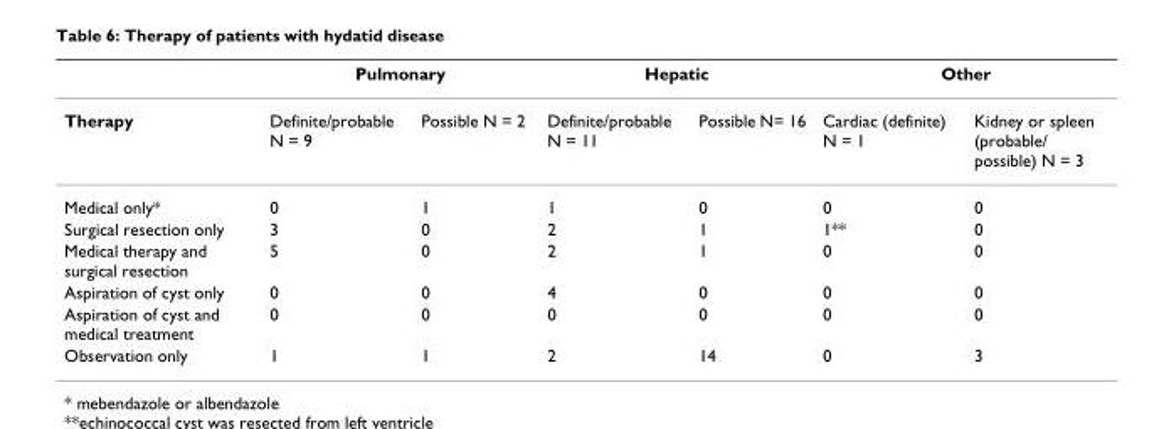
<table><thead><tr><td rowspan="2">Therapy</td><td colspan="2">Pulmonary</td><td colspan="2">Hepatic</td><td colspan="2">Other</td></tr><tr><td>Definite/probable N = 9</td><td>Possible N = 2</td><td>Definite/probable N = 11</td><td>Possible N= 16</td><td>Cardiac (definite) N = 1</td><td>Kidney or spleen (probable/ possible) N = 3</td></tr></thead><tbody><tr><td>Medical only*</td><td>0</td><td>1</td><td>1</td><td>0</td><td>0</td><td>0</td></tr><tr><td>Surgical resection only</td><td>3</td><td>0</td><td>2</td><td>1</td><td>1**</td><td>0</td></tr><tr><td>Medical therapy and surgical resection</td><td>5</td><td>0</td><td>2</td><td>1</td><td>0</td><td>0</td></tr><tr><td>Aspiration of cyst only</td><td>0</td><td>0</td><td>4</td><td>0</td><td>0</td><td>0</td></tr><tr><td>Aspiration of cyst and medical treatment</td><td>0</td><td>0</td><td>0</td><td>0</td><td>0</td><td>0</td></tr><tr><td>Observation only</td><td>1</td><td>1</td><td>2</td><td>14</td><td>0</td><td>3</td></tr></tbody></table>